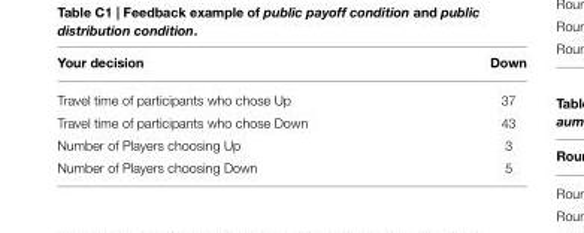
<table><thead><tr><td>Your decision</td><td>Down</td></tr></thead><tbody><tr><td>Travel time of participants who chose Up</td><td>37</td></tr><tr><td>Travel time of participants who chose Down</td><td>43</td></tr><tr><td>Number of Players choosing Up</td><td>3</td></tr><tr><td>Number of Players choosing Down</td><td>5</td></tr></tbody></table>